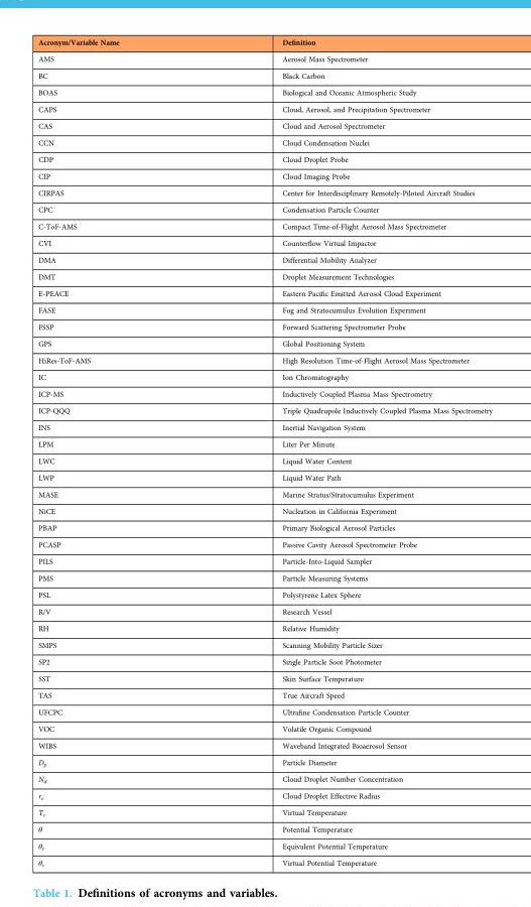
<table><thead><tr><td>Acronym/Variable Name</td><td>Definition</td></tr></thead><tbody><tr><td>AMS</td><td>Aerosol Mass Spectrometer</td></tr><tr><td>BC</td><td>Black Carbon</td></tr><tr><td>BOAS</td><td>Biological and Oceanic Atmospheric Study</td></tr><tr><td>CAPS</td><td>Cloud, Aerosol, and Precipitation Spectrometer</td></tr><tr><td>CAS</td><td>Cloud and Aerosol Spectrometer</td></tr><tr><td>CCN</td><td>Cloud Condensation Nuclei</td></tr><tr><td>CDP</td><td>Cloud Droplet Probe</td></tr><tr><td>CIP</td><td>Cloud Imaging Probe</td></tr><tr><td>CIRPAS</td><td>Center for Interdisciplinary Remotely-Piloted Aircraft Studies</td></tr><tr><td>CPC</td><td>Condensation Particle Counter</td></tr><tr><td>C-ToF-AMS</td><td>Compact Time-of-Flight Aerosol Mass Spectrometer</td></tr><tr><td>CVI</td><td>Counterflow Virtual Impactor</td></tr><tr><td>DMA</td><td>Differential Mobility Analyzer</td></tr><tr><td>DMT</td><td>Droplet Measurement Technologies</td></tr><tr><td>E-PEACE</td><td>Eastern Pacific Emitted Aerosol Cloud Experiment</td></tr><tr><td>FASE</td><td>Fog and Stratocumulus Evolution Experiment</td></tr><tr><td>FSSP</td><td>Forward Scattering Spectrometer Probe</td></tr><tr><td>GPS</td><td>Global Positioning System</td></tr><tr><td>HiRes-ToF-AMS</td><td>High Resolution Time-of-Flight Aerosol Mass Spectrometer</td></tr><tr><td>IC</td><td>Ion Chromatography</td></tr><tr><td>ICP-MS</td><td>Inductively Coupled Plasma Mass Spectrometry</td></tr><tr><td>ICP-QQQ</td><td>Triple Quadrupole Inductively Coupled Plasma Mass Spectrometry</td></tr><tr><td>INS</td><td>Inertial Navigation System</td></tr><tr><td>LPM</td><td>Liter Per Minute</td></tr><tr><td>LWC</td><td>Liquid Water Content</td></tr><tr><td>LWP</td><td>Liquid Water Path</td></tr><tr><td>MASE</td><td>Marine Stratus/Stratocumulus Experiment</td></tr><tr><td>NiCE</td><td>Nucleation in California Experiment</td></tr><tr><td>PBAP</td><td>Primary Biological Aerosol Particles</td></tr><tr><td>PCASP</td><td>Passive Cavity Aerosol Spectrometer Probe</td></tr><tr><td>PILS</td><td>Particle-Into-Liquid Sampler</td></tr><tr><td>PMS</td><td>Particle Measuring Systems</td></tr><tr><td>PSL</td><td>Polystyrene Latex Sphere</td></tr><tr><td>R/V</td><td>Research Vessel</td></tr><tr><td>RH</td><td>Relative Humidity</td></tr><tr><td>SMPS</td><td>Scanning Mobility Particle Sizer</td></tr><tr><td>SP2</td><td>Single Particle Soot Photometer</td></tr><tr><td>SST</td><td>Skin Surface Temperature</td></tr><tr><td>TAS</td><td>True Aircraft Speed</td></tr><tr><td>UFCPC</td><td>Ultrafine Condensation Particle Counter</td></tr><tr><td>VOC</td><td>Volatile Organic Compound</td></tr><tr><td>WIBS</td><td>Waveband Integrated Bioaerosol Sensor</td></tr><tr><td>D<sub>p</sub></td><td>Particle Diameter</td></tr><tr><td>N<sub>d</sub></td><td>Cloud Droplet Number Concentration</td></tr><tr><td>r<sub>e</sub></td><td>Cloud Droplet Effective Radius</td></tr><tr><td>T<sub>v</sub></td><td>Virtual Temperature</td></tr><tr><td>θ</td><td>Potential Temperature</td></tr><tr><td>θ<sub>e</sub></td><td>Equivalent Potential Temperature</td></tr><tr><td>θ<sub>v</sub></td><td>Virtual Potential Temperature</td></tr></tbody></table>